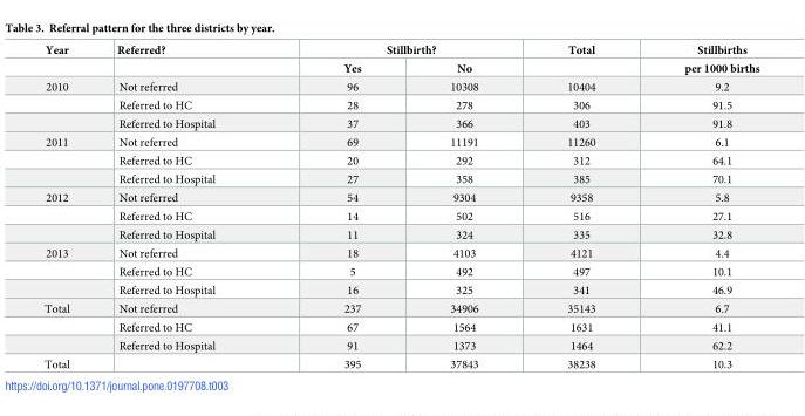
<table><thead><tr><td rowspan="2">Year</td><td rowspan="2">Referred?</td><td colspan="2">Stillbirth?</td><td rowspan="2">Total</td><td rowspan="2">Stillbirths per 1000 births</td></tr><tr><td>Yes</td><td>No</td></tr></thead><tbody><tr><td rowspan="3">2010</td><td>Not referred</td><td>96</td><td>10308</td><td>10404</td><td>9.2</td></tr><tr><td>Referred to HC</td><td>28</td><td>278</td><td>306</td><td>91.5</td></tr><tr><td>Referred to Hospital</td><td>37</td><td>366</td><td>403</td><td>91.8</td></tr><tr><td rowspan="3">2011</td><td>Not referred</td><td>69</td><td>11191</td><td>11260</td><td>6.1</td></tr><tr><td>Referred to HC</td><td>20</td><td>292</td><td>312</td><td>64.1</td></tr><tr><td>Referred to Hospital</td><td>27</td><td>358</td><td>385</td><td>70.1</td></tr><tr><td rowspan="3">2012</td><td>Not referred</td><td>54</td><td>9304</td><td>9358</td><td>5.8</td></tr><tr><td>Referred to HC</td><td>14</td><td>502</td><td>516</td><td>27.1</td></tr><tr><td>Referred to Hospital</td><td>11</td><td>324</td><td>335</td><td>32.8</td></tr><tr><td rowspan="3">2013</td><td>Not referred</td><td>18</td><td>4103</td><td>4121</td><td>4.4</td></tr><tr><td>Referred to HC</td><td>5</td><td>492</td><td>497</td><td>10.1</td></tr><tr><td>Referred to Hospital</td><td>16</td><td>325</td><td>341</td><td>46.9</td></tr><tr><td rowspan="3">Total</td><td>Not referred</td><td>237</td><td>34906</td><td>35143</td><td>6.7</td></tr><tr><td>Referred to HC</td><td>67</td><td>1564</td><td>1631</td><td>41.1</td></tr><tr><td>Referred to Hospital</td><td>91</td><td>1373</td><td>1464</td><td>62.2</td></tr><tr><td>Total</td><td></td><td>395</td><td>37843</td><td>38238</td><td>10.3</td></tr></tbody></table>